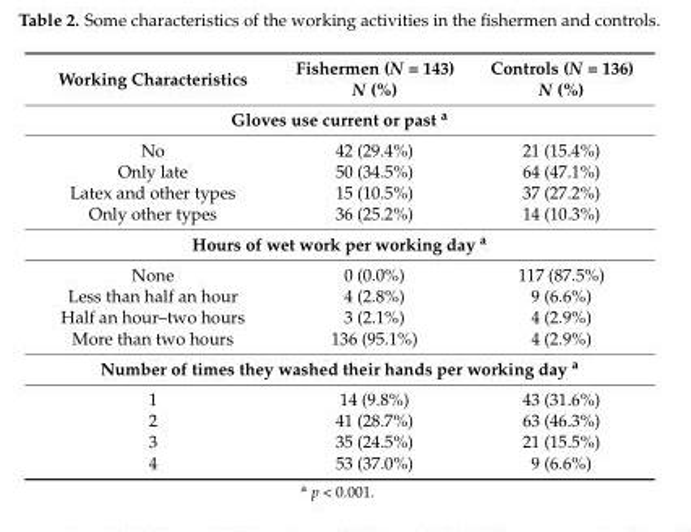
<table><thead><tr><td>Working Characteristics</td><td>Fishermen (N = 143) N (%)</td><td>Controls (N = 136) N (%)</td></tr></thead><tbody><tr><td colspan="3">Gloves use current or past <sup>a</sup></td></tr><tr><td>No</td><td>42 (29.4%)</td><td>21 (15.4%)</td></tr><tr><td>Only late</td><td>50 (34.5%)</td><td>64 (47.1%)</td></tr><tr><td>Latex and other types</td><td>15 (10.5%)</td><td>37 (27.2%)</td></tr><tr><td>Only other types</td><td>36 (25.2%)</td><td>14 (10.3%)</td></tr><tr><td colspan="3">Hours of wet work per working day <sup>a</sup></td></tr><tr><td>None</td><td>0 (0.0%)</td><td>117 (87.5%)</td></tr><tr><td>Less than half an hour</td><td>4 (2.8%)</td><td>9 (6.6%)</td></tr><tr><td>Half an hour–two hours</td><td>3 (2.1%)</td><td>4 (2.9%)</td></tr><tr><td>More than two hours</td><td>136 (95.1%)</td><td>4 (2.9%)</td></tr><tr><td colspan="3">Number of times they washed their hands per working day <sup>a</sup></td></tr><tr><td>1</td><td>14 (9.8%)</td><td>43 (31.6%)</td></tr><tr><td>2</td><td>41 (28.7%)</td><td>63 (46.3%)</td></tr><tr><td>3</td><td>35 (24.5%)</td><td>21 (15.5%)</td></tr><tr><td>4</td><td>53 (37.0%)</td><td>9 (6.6%)</td></tr></tbody></table>